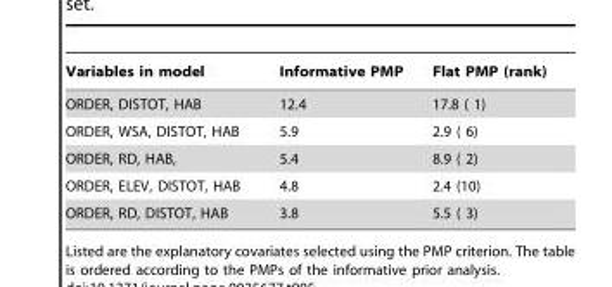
<table><thead><tr><td>Variables in model</td><td>Informative PMP</td><td>Flat PMP (rank)</td></tr></thead><tbody><tr><td>ORDER, DISTOT, HAB</td><td>12.4</td><td>17.8 ( 1)</td></tr><tr><td>ORDER, WSA, DISTOT, HAB</td><td>5.9</td><td>2.9 ( 6)</td></tr><tr><td>ORDER, RD, HAB,</td><td>5.4</td><td>8.9 ( 2)</td></tr><tr><td>ORDER, ELEV, DISTOT, HAB</td><td>4.8</td><td>2.4 (10)</td></tr><tr><td>ORDER, RD, DISTOT, HAB</td><td>3.8</td><td>5.5 ( 3)</td></tr></tbody></table>